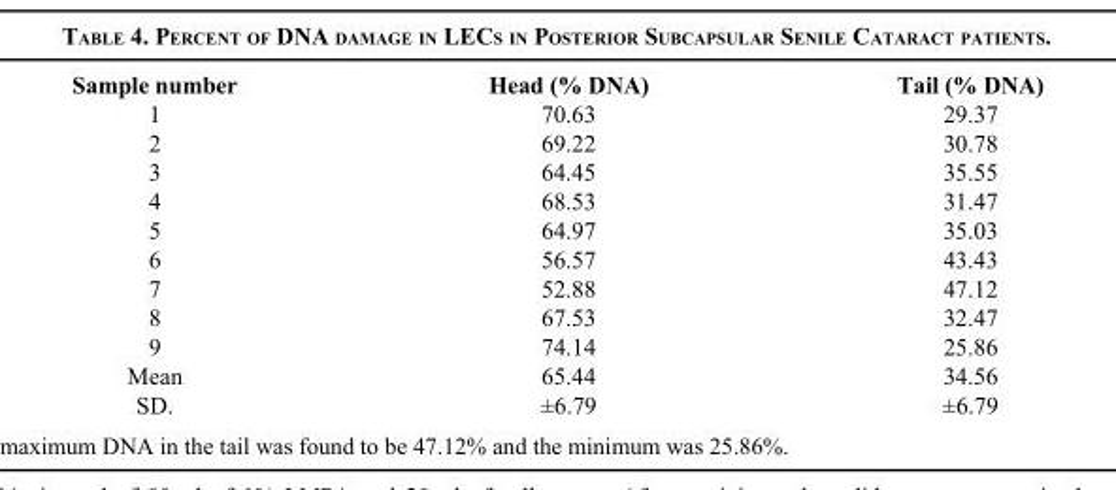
<table><thead><tr><td>Sample number</td><td>Head (% DNA)</td><td>Tail (% DNA)</td></tr></thead><tbody><tr><td>1</td><td>70.63</td><td>29.37</td></tr><tr><td>2</td><td>69.22</td><td>30.78</td></tr><tr><td>3</td><td>64.45</td><td>35.55</td></tr><tr><td>4</td><td>68.53</td><td>31.47</td></tr><tr><td>5</td><td>64.97</td><td>35.03</td></tr><tr><td>6</td><td>56.57</td><td>43.43</td></tr><tr><td>7</td><td>52.88</td><td>47.12</td></tr><tr><td>8</td><td>67.53</td><td>32.47</td></tr><tr><td>9</td><td>74.14</td><td>25.86</td></tr><tr><td>Mean</td><td>65.44</td><td>34.56</td></tr><tr><td>SD.</td><td>±6.79</td><td>±6.79</td></tr></tbody></table>